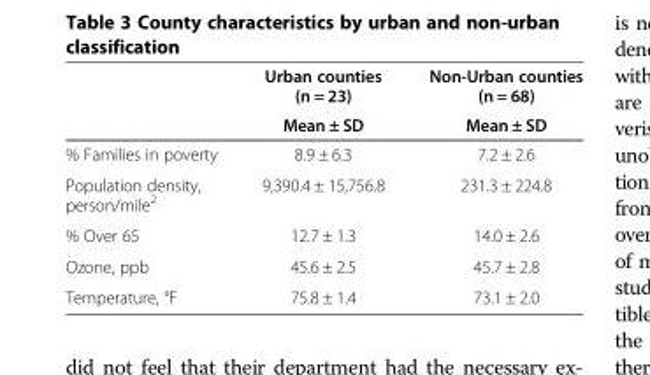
<table><thead><tr><td rowspan="2"></td><td rowspan="2">Urban counties (n = 23) Mean ± SD</td><td rowspan="2">Non-Urban counties (n = 68) Mean ± SD</td></tr><tr></tr></thead><tbody><tr><td>% Families in poverty</td><td>8.9 ± 6.3</td><td>7.2 ± 2.6</td></tr><tr><td>Population density, person/mile<sup>2</sup></td><td>9,390.4 ± 15,756.8</td><td>231.3 ± 224.8</td></tr><tr><td>% Over 65</td><td>12.7 ± 1.3</td><td>14.0 ± 2.6</td></tr><tr><td>Ozone, ppb</td><td>45.6 ± 2.5</td><td>45.7 ± 2.8</td></tr><tr><td>Temperature, °F</td><td>75.8 ± 1.4</td><td>73.1 ± 2.0</td></tr></tbody></table>